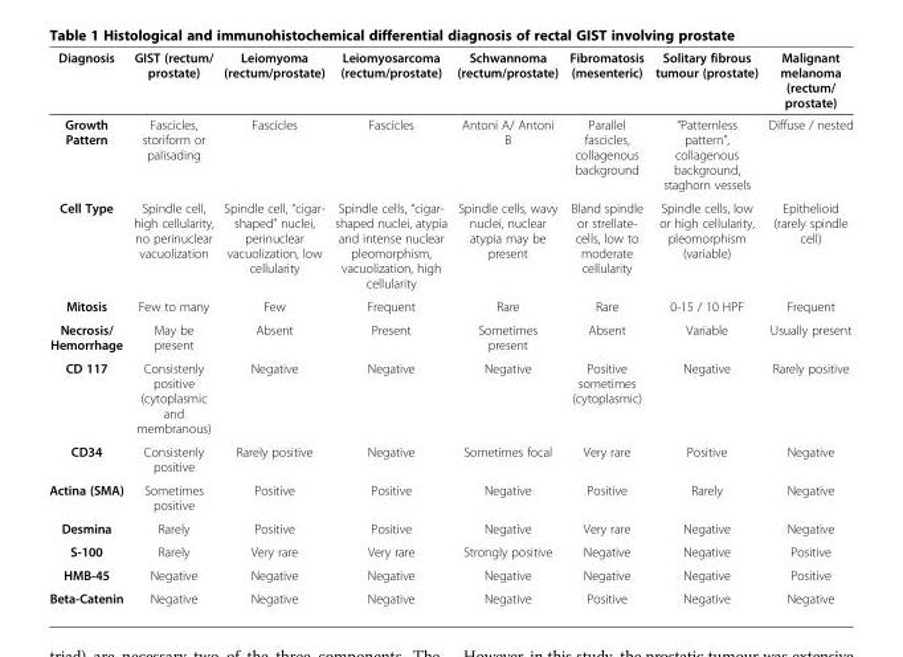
<table><thead><tr><td>Diagnosis</td><td>GIST (rectum/ prostate)</td><td>Leiomyoma (rectum/prostate)</td><td>Leiomyosarcoma (rectum/prostate)</td><td>Schwannoma (rectum/prostate)</td><td>Fibromatosis (mesenteric)</td><td>Solitary fibrous tumour (prostate)</td><td>Malignant melanoma (rectum/ prostate)</td></tr></thead><tbody><tr><td>Growth Pattern</td><td>Fascicles, storiform or palisading</td><td>Fascicles</td><td>Fascicles</td><td>Antoni A/ Antoni B</td><td>Parallel fascicles, collagenous background</td><td>“Patternless pattern”, collagenous background, staghorn vessels</td><td>Diffuse / nested</td></tr><tr><td>Cell Type</td><td>Spindle cell, high cellularity, no perinuclear vacuolization</td><td>Spindle cell, “cigar- shaped” nuclei, perinuclear vacuolization, low cellularity</td><td>Spindle cells, “cigar- shaped nuclei, atypia and intense nuclear pleomorphism, vacuolization, high cellularity</td><td>Spindle cells, wavy nuclei, nuclear atypia may be present</td><td>Bland spindle or strellate- cells, low to moderate cellularity</td><td>Spindle cells, low or high cellularity, pleomorphism (variable)</td><td>Epithelioid (rarely spindle cell)</td></tr><tr><td>Mitosis</td><td>Few to many</td><td>Few</td><td>Frequent</td><td>Rare</td><td>Rare</td><td>0-15 / 10 HPF</td><td>Frequent</td></tr><tr><td>Necrosis/ Hemorrhage</td><td>May be present</td><td>Absent</td><td>Present</td><td>Sometimes present</td><td>Absent</td><td>Variable</td><td>Usually present</td></tr><tr><td>CD 117</td><td>Consistenly positive (cytoplasmic and membranous)</td><td>Negative</td><td>Negative</td><td>Negative</td><td>Positive sometimes (cytoplasmic)</td><td>Negative</td><td>Rarely positive</td></tr><tr><td>CD34</td><td>Consistenly positive</td><td>Rarely positive</td><td>Negative</td><td>Sometimes focal</td><td>Very rare</td><td>Positive</td><td>Negative</td></tr><tr><td>Actina (SMA)</td><td>Sometimes positive</td><td>Positive</td><td>Positive</td><td>Negative</td><td>Positive</td><td>Rarely</td><td>Negative</td></tr><tr><td>Desmina</td><td>Rarely</td><td>Positive</td><td>Positive</td><td>Negative</td><td>Very rare</td><td>Negative</td><td>Negative</td></tr><tr><td>S-100</td><td>Rarely</td><td>Very rare</td><td>Very rare</td><td>Strongly positive</td><td>Negative</td><td>Negative</td><td>Positive</td></tr><tr><td>HMB-45</td><td>Negative</td><td>Negative</td><td>Negative</td><td>Negative</td><td>Negative</td><td>Negative</td><td>Positive</td></tr><tr><td>Beta-Catenin</td><td>Negative</td><td>Negative</td><td>Negative</td><td>Negative</td><td>Positive</td><td>Negative</td><td>Negative</td></tr></tbody></table>